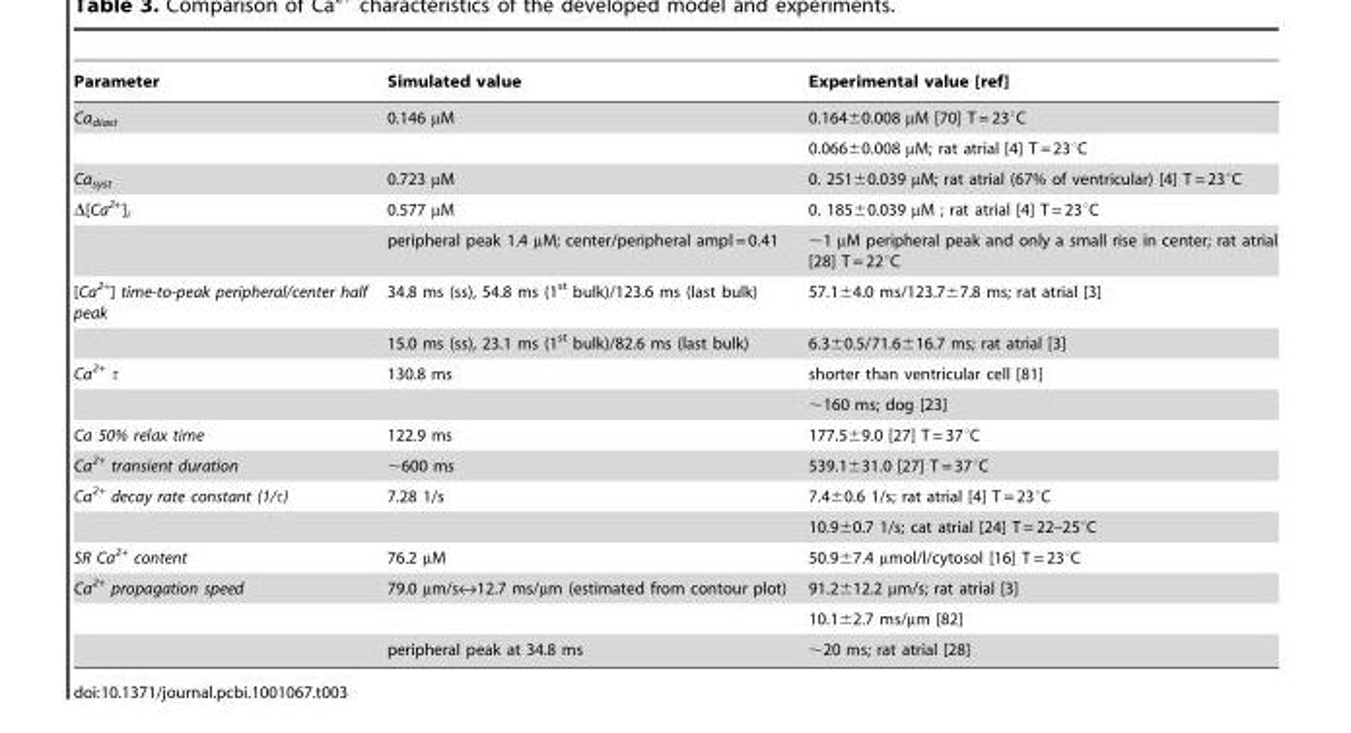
<table><thead><tr><td>Parameter</td><td>Simulated value</td><td>Experimental value [ref]</td></tr></thead><tbody><tr><td rowspan="2">Ca<sub>diast</sub></td><td>0.146 µM</td><td>0.164±0.008 µM [70] T = 23°C</td></tr><tr><td></td><td>0.066±0.008 µM; rat atrial [4] T = 23°C</td></tr><tr><td>Ca<sub>syst</sub></td><td>0.723 µM</td><td>0. 251±0.039 µM; rat atrial (67% of ventricular) [4] T = 23°C</td></tr><tr><td rowspan="2">Δ[Ca<sup>2+</sup>]<sub>i</sub></td><td>0.577 µM</td><td>0. 185±0.039 µM ; rat atrial [4] T = 23°C</td></tr><tr><td>peripheral peak 1.4 µM; center/peripheral ampl = 0.41</td><td>∼1 µM peripheral peak and only a small rise in center; rat atrial [28] T = 22°C</td></tr><tr><td rowspan="2">[Ca<sup>2+</sup>] time-to-peak peripheral/center half peak</td><td>34.8 ms (ss), 54.8 ms (1<sup>st</sup> bulk)/123.6 ms (last bulk)</td><td>57.1±4.0 ms/123.7±7.8 ms; rat atrial [3]</td></tr><tr><td>15.0 ms (ss), 23.1 ms (1<sup>st</sup> bulk)/82.6 ms (last bulk)</td><td>6.3±0.5/71.6±16.7 ms; rat atrial [3]</td></tr><tr><td rowspan="2">Ca<sup>2+</sup> τ</td><td>130.8 ms</td><td>shorter than ventricular cell [81]</td></tr><tr><td></td><td>∼160 ms; dog [23]</td></tr><tr><td>Ca 50% relax time</td><td>122.9 ms</td><td>177.5±9.0 [27] T = 37°C</td></tr><tr><td>Ca<sup>2+</sup> transient duration</td><td>∼600 ms</td><td>539.1±31.0 [27] T = 37°C</td></tr><tr><td rowspan="2">Ca<sup>2+</sup> decay rate constant (1/τ)</td><td>7.28 1/s</td><td>7.4±0.6 1/s; rat atrial [4] T = 23°C</td></tr><tr><td></td><td>10.9±0.7 1/s; cat atrial [24] T = 22–25°C</td></tr><tr><td>SR Ca<sup>2+</sup> content</td><td>76.2 µM</td><td>50.9±7.4 µmol/l/cytosol [16] T = 23°C</td></tr><tr><td rowspan="3">Ca<sup>2+</sup> propagation speed</td><td>79.0 µm/s↔12.7 ms/µm (estimated from contour plot)</td><td>91.2±12.2 µm/s; rat atrial [3]</td></tr><tr><td></td><td>10.1±2.7 ms/µm [82]</td></tr><tr><td>peripheral peak at 34.8 ms</td><td>∼20 ms; rat atrial [28]</td></tr></tbody></table>